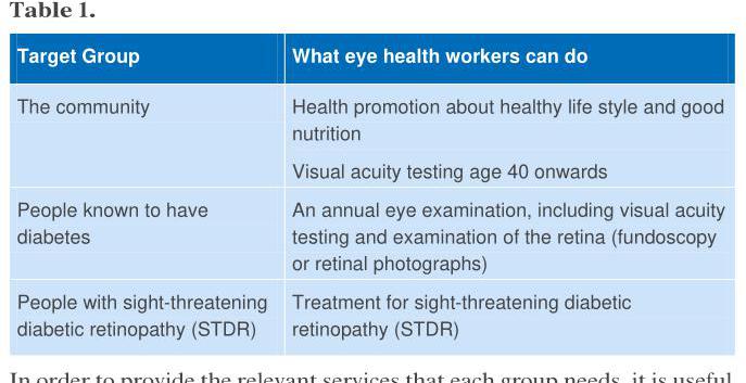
<table><thead><tr><td>Target Group</td><td>What eye health workers can do</td></tr></thead><tbody><tr><td rowspan="2">The community</td><td>Health promotion about healthy life style and good nutrition</td></tr><tr><td>Visual acuity testing age 40 onwards</td></tr><tr><td>People known to have diabetes</td><td>An annual eye examination, including visual acuity testing and examination of the retina (fundoscopy or retinal photographs)</td></tr><tr><td>People with sight-threatening diabetic retinopathy (STDR)</td><td>Treatment for sight-threatening diabetic retinopathy (STDR)</td></tr></tbody></table>